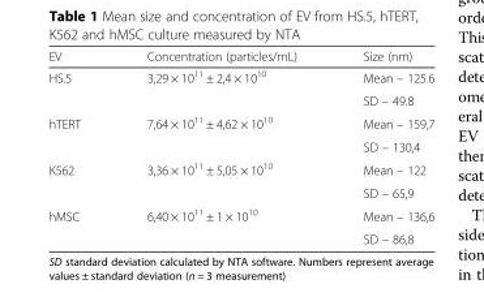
<table><thead><tr><td>EV</td><td>Concentration (particles/mL)</td><td>Size (nm)</td></tr></thead><tbody><tr><td rowspan="2">HS.5</td><td rowspan="2">3,29 × 10<sup>11</sup> ± 2,4 × 10<sup>10</sup></td><td>Mean – 125.6</td></tr><tr><td>SD – 49.8</td></tr><tr><td rowspan="2">hTERT</td><td rowspan="2">7,64 × 10<sup>11</sup> ± 4,62 × 10<sup>10</sup></td><td>Mean – 159,7</td></tr><tr><td>SD – 130,4</td></tr><tr><td rowspan="2">K562</td><td rowspan="2">3,36 × 10<sup>11</sup> ± 5,05 × 10<sup>10</sup></td><td>Mean – 122</td></tr><tr><td>SD – 65,9</td></tr><tr><td rowspan="2">hMSC</td><td rowspan="2">6,40 × 10<sup>11</sup> ± 1 × 10<sup>10</sup></td><td>Mean – 136,6</td></tr><tr><td>SD – 86,8</td></tr></tbody></table>